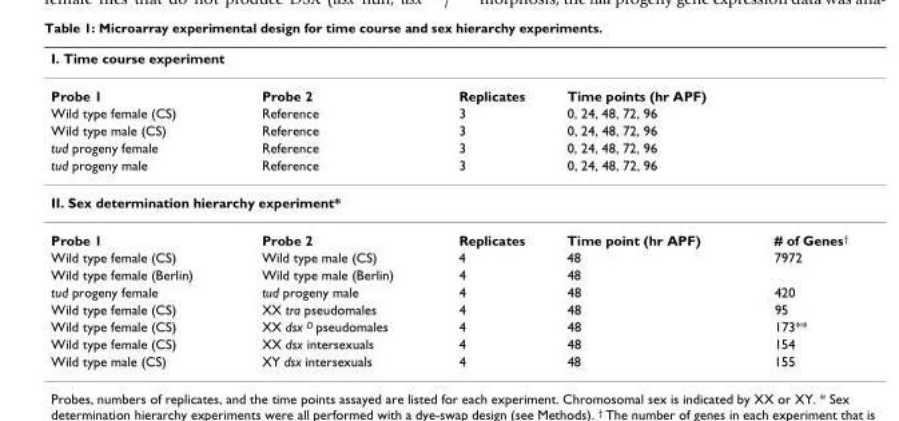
<table><thead><tr><td colspan="5">I. Time course experiment</td></tr><tr><td>Probe 1</td><td>Probe 2</td><td>Replicates</td><td>Time points (hr APF)</td><td></td></tr></thead><tbody><tr><td>Wild type female (CS)</td><td>Reference</td><td>3</td><td>0, 24, 48, 72, 96</td><td></td></tr><tr><td>Wild type male (CS)</td><td>Reference</td><td>3</td><td>0, 24, 48, 72, 96</td><td></td></tr><tr><td>tud progeny female</td><td>Reference</td><td>3</td><td>0, 24, 48, 72, 96</td><td></td></tr><tr><td>tud progeny male</td><td>Reference</td><td>3</td><td>0, 24, 48, 72, 96</td><td></td></tr><tr><td colspan="5">II. Sex determination hierarchy experiment*</td></tr><tr><td>Probe 1</td><td>Probe 2</td><td>Replicates</td><td>Time point (hr APF)</td><td># of Genes<sup>†</sup></td></tr><tr><td>Wild type female (CS)</td><td>Wild type male (CS)</td><td>4</td><td>48</td><td>7972</td></tr><tr><td>Wild type female (Berlin)</td><td>Wild type male (Berlin)</td><td>4</td><td>48</td><td></td></tr><tr><td>tud progeny female</td><td>tud progeny male</td><td>4</td><td>48</td><td>420</td></tr><tr><td>Wild type female (CS)</td><td>XX tra pseudomales</td><td>4</td><td>48</td><td>95</td></tr><tr><td>Wild type female (CS)</td><td>XX dsx <sup>D</sup> pseudomales</td><td>4</td><td>48</td><td>173**</td></tr><tr><td>Wild type female (CS)</td><td>XX dsx intersexuals</td><td>4</td><td>48</td><td>154</td></tr><tr><td>Wild type male (CS)</td><td>XY dsx intersexuals</td><td>4</td><td>48</td><td>155</td></tr></tbody></table>